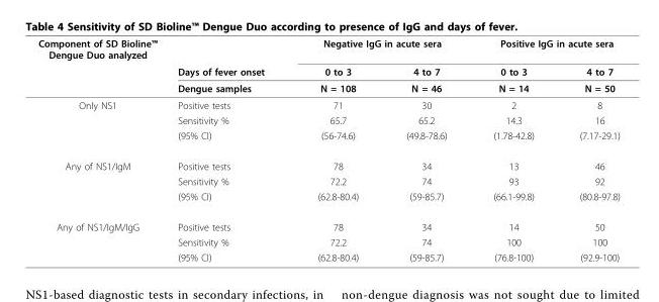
<table><thead><tr><td rowspan="3">Component of SD Bioline™ Dengue Duo analyzed</td><td rowspan="3">Days of fever onset Dengue samples</td><td colspan="2">Negative IgG in acute sera</td><td colspan="2">Positive IgG in acute sera</td></tr><tr><td rowspan="2">0 to 3 N = 108</td><td rowspan="2">4 to 7 N = 46</td><td rowspan="2">0 to 3 N = 14</td><td rowspan="2">4 to 7 N = 50</td></tr><tr></tr></thead><tbody><tr><td rowspan="3">Only NS1</td><td>Positive tests</td><td>71</td><td>30</td><td>2</td><td>8</td></tr><tr><td>Sensitivity %</td><td>65.7</td><td>65.2</td><td>14.3</td><td>16</td></tr><tr><td>(95% CI)</td><td>(56-74.6)</td><td>(49.8-78.6)</td><td>(1.78-42.8)</td><td>(7.17-29.1)</td></tr><tr><td rowspan="3">Any of NS1/IgM</td><td>Positive tests</td><td>78</td><td>34</td><td>13</td><td>46</td></tr><tr><td>Sensitivity %</td><td>72.2</td><td>74</td><td>93</td><td>92</td></tr><tr><td>(95% CI)</td><td>(62.8-80.4)</td><td>(59-85.7)</td><td>(66.1-99.8)</td><td>(80.8-97.8)</td></tr><tr><td rowspan="3">Any of NS1/IgM/IgG</td><td>Positive tests</td><td>78</td><td>34</td><td>14</td><td>50</td></tr><tr><td>Sensitivity %</td><td>72.2</td><td>74</td><td>100</td><td>100</td></tr><tr><td>(95% CI)</td><td>(62.8-80.4)</td><td>(59-85.7)</td><td>(76.8-100)</td><td>(92.9-100)</td></tr></tbody></table>